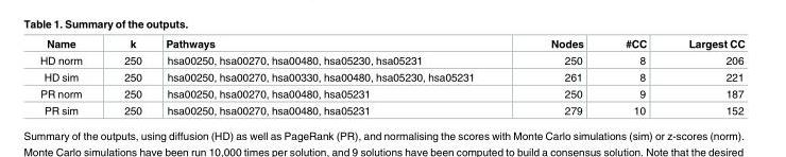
<table><thead><tr><td>Name</td><td>k</td><td>Pathways</td><td>Nodes</td><td>#CC</td><td>Largest CC</td></tr></thead><tbody><tr><td>HD norm</td><td>250</td><td>hsa00250, hsa00270, hsa00480, hsa05230, hsa05231</td><td>250</td><td>8</td><td>206</td></tr><tr><td>HD sim</td><td>250</td><td>hsa00250, hsa00270, hsa00330, hsa00480, hsa05230, hsa05231</td><td>261</td><td>8</td><td>221</td></tr><tr><td>PR norm</td><td>250</td><td>hsa00250, hsa00270, hsa00480, hsa05231</td><td>250</td><td>9</td><td>187</td></tr><tr><td>PR sim</td><td>250</td><td>hsa00250, hsa00270, hsa00480, hsa05231</td><td>279</td><td>10</td><td>152</td></tr></tbody></table>